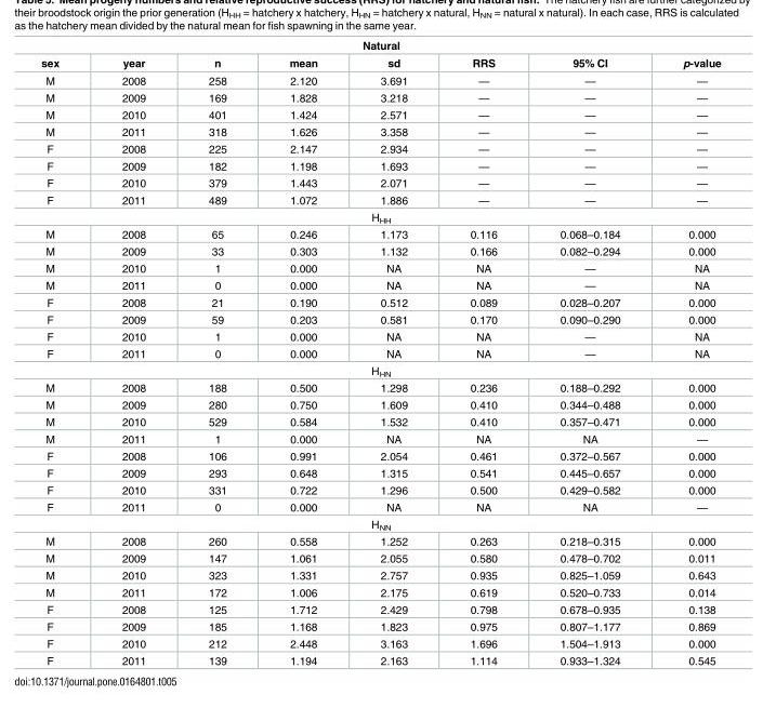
<table><thead><tr><td colspan="8">Natural</td></tr><tr><td>sex</td><td>year</td><td>n</td><td>mean</td><td>sd</td><td>RRS</td><td>95% CI</td><td>p-value</td></tr></thead><tbody><tr><td>M</td><td>2008</td><td>258</td><td>2.120</td><td>3.691</td><td>—</td><td>—</td><td>—</td></tr><tr><td>M</td><td>2009</td><td>169</td><td>1.828</td><td>3.218</td><td>—</td><td>—</td><td>—</td></tr><tr><td>M</td><td>2010</td><td>401</td><td>1.424</td><td>2.571</td><td>—</td><td>—</td><td>—</td></tr><tr><td>M</td><td>2011</td><td>318</td><td>1.626</td><td>3.358</td><td>—</td><td>—</td><td>—</td></tr><tr><td>F</td><td>2008</td><td>225</td><td>2.147</td><td>2.934</td><td>—</td><td>—</td><td>—</td></tr><tr><td>F</td><td>2009</td><td>182</td><td>1.198</td><td>1.693</td><td>—</td><td>—</td><td>—</td></tr><tr><td>F</td><td>2010</td><td>379</td><td>1.443</td><td>2.071</td><td>—</td><td>—</td><td>—</td></tr><tr><td>F</td><td>2011</td><td>489</td><td>1.072</td><td>1.886</td><td>—</td><td>—</td><td>—</td></tr><tr><td colspan="8">H<sub>HH</sub></td></tr><tr><td>M</td><td>2008</td><td>65</td><td>0.246</td><td>1.173</td><td>0.116</td><td>0.068–0.184</td><td>0.000</td></tr><tr><td>M</td><td>2009</td><td>33</td><td>0.303</td><td>1.132</td><td>0.166</td><td>0.082–0.294</td><td>0.000</td></tr><tr><td>M</td><td>2010</td><td>1</td><td>0.000</td><td>NA</td><td>NA</td><td>—</td><td>NA</td></tr><tr><td>M</td><td>2011</td><td>0</td><td>0.000</td><td>NA</td><td>NA</td><td>—</td><td>NA</td></tr><tr><td>F</td><td>2008</td><td>21</td><td>0.190</td><td>0.512</td><td>0.089</td><td>0.028–0.207</td><td>0.000</td></tr><tr><td>F</td><td>2009</td><td>59</td><td>0.203</td><td>0.581</td><td>0.170</td><td>0.090–0.290</td><td>0.000</td></tr><tr><td>F</td><td>2010</td><td>1</td><td>0.000</td><td>NA</td><td>NA</td><td>—</td><td>NA</td></tr><tr><td>F</td><td>2011</td><td>0</td><td>0.000</td><td>NA</td><td>NA</td><td>—</td><td>NA</td></tr><tr><td colspan="8">H<sub>HN</sub></td></tr><tr><td>M</td><td>2008</td><td>188</td><td>0.500</td><td>1.298</td><td>0.236</td><td>0.188–0.292</td><td>0.000</td></tr><tr><td>M</td><td>2009</td><td>280</td><td>0.750</td><td>1.609</td><td>0.410</td><td>0.344–0.488</td><td>0.000</td></tr><tr><td>M</td><td>2010</td><td>529</td><td>0.584</td><td>1.532</td><td>0.410</td><td>0.357–0.471</td><td>0.000</td></tr><tr><td>M</td><td>2011</td><td>1</td><td>0.000</td><td>NA</td><td>NA</td><td>NA</td><td>—</td></tr><tr><td>F</td><td>2008</td><td>106</td><td>0.991</td><td>2.054</td><td>0.461</td><td>0.372–0.567</td><td>0.000</td></tr><tr><td>F</td><td>2009</td><td>293</td><td>0.648</td><td>1.315</td><td>0.541</td><td>0.445–0.657</td><td>0.000</td></tr><tr><td>F</td><td>2010</td><td>331</td><td>0.722</td><td>1.296</td><td>0.500</td><td>0.429–0.582</td><td>0.000</td></tr><tr><td>F</td><td>2011</td><td>0</td><td>0.000</td><td>NA</td><td>NA</td><td>NA</td><td>—</td></tr><tr><td colspan="8">H<sub>NN</sub></td></tr><tr><td>M</td><td>2008</td><td>260</td><td>0.558</td><td>1.252</td><td>0.263</td><td>0.218–0.315</td><td>0.000</td></tr><tr><td>M</td><td>2009</td><td>147</td><td>1.061</td><td>2.055</td><td>0.580</td><td>0.478–0.702</td><td>0.011</td></tr><tr><td>M</td><td>2010</td><td>323</td><td>1.331</td><td>2.757</td><td>0.935</td><td>0.825–1.059</td><td>0.643</td></tr><tr><td>M</td><td>2011</td><td>172</td><td>1.006</td><td>2.175</td><td>0.619</td><td>0.520–0.733</td><td>0.014</td></tr><tr><td>F</td><td>2008</td><td>125</td><td>1.712</td><td>2.429</td><td>0.798</td><td>0.678–0.935</td><td>0.138</td></tr><tr><td>F</td><td>2009</td><td>185</td><td>1.168</td><td>1.823</td><td>0.975</td><td>0.807–1.177</td><td>0.869</td></tr><tr><td>F</td><td>2010</td><td>212</td><td>2.448</td><td>3.163</td><td>1.696</td><td>1.504–1.913</td><td>0.000</td></tr><tr><td>F</td><td>2011</td><td>139</td><td>1.194</td><td>2.163</td><td>1.114</td><td>0.933–1.324</td><td>0.545</td></tr></tbody></table>